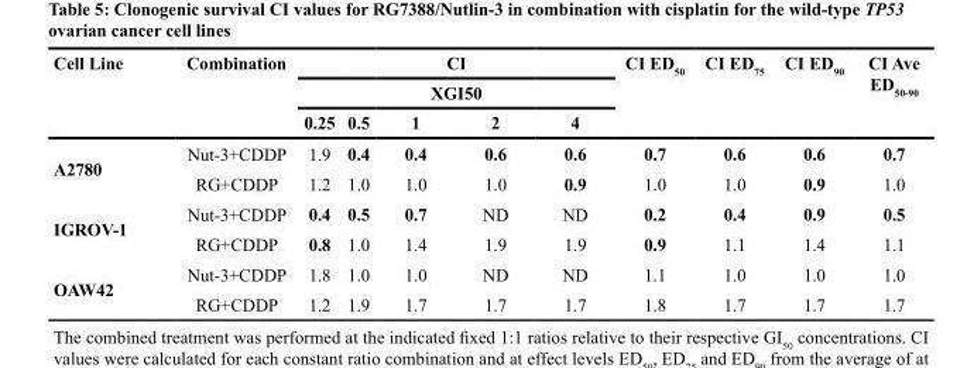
<table><thead><tr><td rowspan="3">Cell Line</td><td rowspan="3">Combination</td><td rowspan="2" colspan="5">CI XGI50</td><td rowspan="3">CI ED<sub>50</sub></td><td rowspan="3">CI ED<sub>75</sub></td><td rowspan="3">CI ED<sub>90</sub></td><td rowspan="3">CI Ave ED<sub>50-90</sub></td></tr><tr></tr><tr><td>0.25</td><td>0.5</td><td>1</td><td>2</td><td>4</td></tr></thead><tbody><tr><td rowspan="2">A2780</td><td>Nut-3+CDDP</td><td>1.9</td><td>0.4</td><td>0.4</td><td>0.6</td><td>0.6</td><td>0.7</td><td>0.6</td><td>0.6</td><td>0.7</td></tr><tr><td>RG+CDDP</td><td>1.2</td><td>1.0</td><td>1.0</td><td>1.0</td><td>0.9</td><td>1.0</td><td>1.0</td><td>0.9</td><td>1.0</td></tr><tr><td rowspan="2">IGROV-1</td><td>Nut-3+CDDP</td><td>0.4</td><td>0.5</td><td>0.7</td><td>ND</td><td>ND</td><td>0.2</td><td>0.4</td><td>0.9</td><td>0.5</td></tr><tr><td>RG+CDDP</td><td>0.8</td><td>1.0</td><td>1.4</td><td>1.9</td><td>1.9</td><td>0.9</td><td>1.1</td><td>1.4</td><td>1.1</td></tr><tr><td rowspan="2">OAW42</td><td>Nut-3+CDDP</td><td>1.8</td><td>1.0</td><td>1.0</td><td>ND</td><td>ND</td><td>1.1</td><td>1.0</td><td>1.0</td><td>1.0</td></tr><tr><td>RG+CDDP</td><td>1.2</td><td>1.9</td><td>1.7</td><td>1.7</td><td>1.7</td><td>1.8</td><td>1.7</td><td>1.7</td><td>1.7</td></tr></tbody></table>